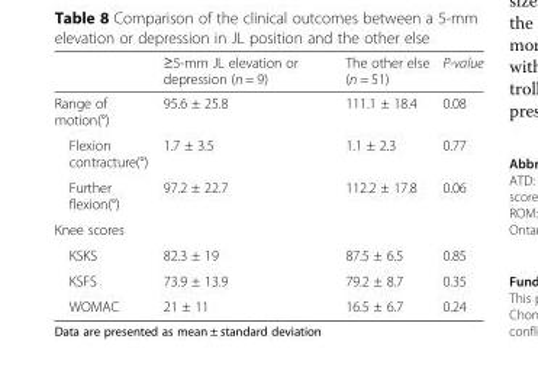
<table><thead><tr><td></td><td>≥5-mm JL elevation or depression (n = 9)</td><td>The other else (n = 51)</td><td>P-value</td></tr></thead><tbody><tr><td>Range of motion(°)</td><td>95.6 ± 25.8</td><td>111.1 ± 18.4</td><td>0.08</td></tr><tr><td>Flexion contracture(°)</td><td>1.7 ± 3.5</td><td>1.1 ± 2.3</td><td>0.77</td></tr><tr><td>Further flexion(°)</td><td>97.2 ± 22.7</td><td>112.2 ± 17.8</td><td>0.06</td></tr><tr><td colspan="4">Knee scores</td></tr><tr><td>KSKS</td><td>82.3 ± 19</td><td>87.5 ± 6.5</td><td>0.85</td></tr><tr><td>KSFS</td><td>73.9 ± 13.9</td><td>79.2 ± 8.7</td><td>0.35</td></tr><tr><td>WOMAC</td><td>21 ± 11</td><td>16.5 ± 6.7</td><td>0.24</td></tr></tbody></table>